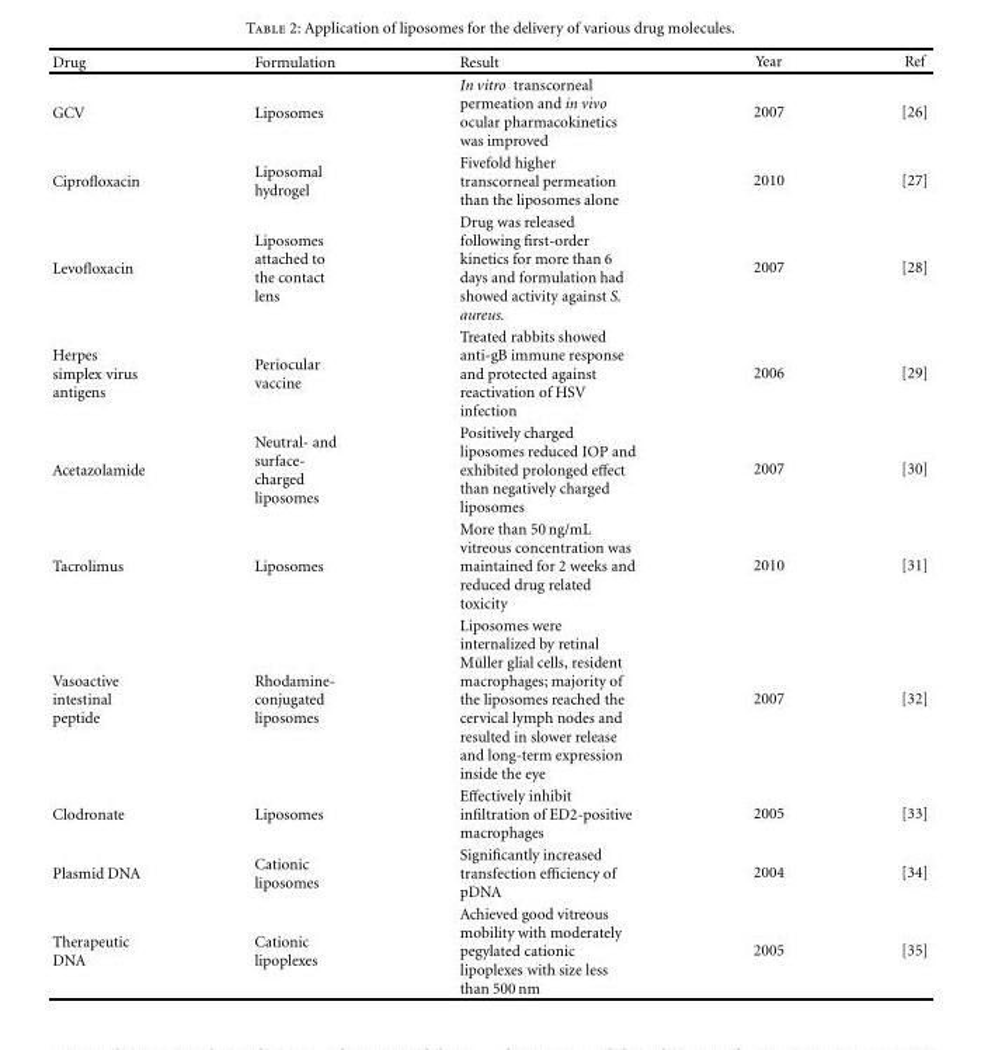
<table><thead><tr><td>Drug</td><td>Formulation</td><td>Result</td><td>Year</td><td>Ref</td></tr></thead><tbody><tr><td>GCV</td><td>Liposomes</td><td>In vitro transcorneal permeation and in vivo ocular pharmacokinetics was improved</td><td>2007</td><td>[26]</td></tr><tr><td>Ciprofloxacin</td><td>Liposomal hydrogel</td><td>Fivefold higher transcorneal permeation than the liposomes alone</td><td>2010</td><td>[27]</td></tr><tr><td>Levofloxacin</td><td>Liposomes attached to the contact lens</td><td>Drug was released following first-order kinetics for more than 6 days and formulation had showed activity against S. aureus.</td><td>2007</td><td>[28]</td></tr><tr><td>Herpes simplex virus antigens</td><td>Periocular vaccine</td><td>Treated rabbits showed anti-gB immune response and protected against reactivation of HSV infection</td><td>2006</td><td>[29]</td></tr><tr><td>Acetazolamide</td><td>Neutral- and surface- charged liposomes</td><td>Positively charged liposomes reduced IOP and exhibited prolonged effect than negatively charged liposomes</td><td>2007</td><td>[30]</td></tr><tr><td>Tacrolimus</td><td>Liposomes</td><td>More than 50 ng/mL vitreous concentration was maintained for 2 weeks and reduced drug related toxicity</td><td>2010</td><td>[31]</td></tr><tr><td>Vasoactive intestinal peptide</td><td>Rhodamine- conjugated liposomes</td><td>Liposomes were internalized by retinal M¨uller glial cells, resident macrophages; majority of the liposomes reached the cervical lymph nodes and resulted in slower release and long-term expression inside the eye</td><td>2007</td><td>[32]</td></tr><tr><td>Clodronate</td><td>Liposomes</td><td>Effectively inhibit infiltration of ED2-positive macrophages</td><td>2005</td><td>[33]</td></tr><tr><td>Plasmid DNA</td><td>Cationic liposomes</td><td>Significantly increased transfection efficiency of pDNA</td><td>2004</td><td>[34]</td></tr><tr><td>Therapeutic DNA</td><td>Cationic lipoplexes</td><td>Achieved good vitreous mobility with moderately pegylated cationic lipoplexes with size less than 500 nm</td><td>2005</td><td>[35]</td></tr></tbody></table>